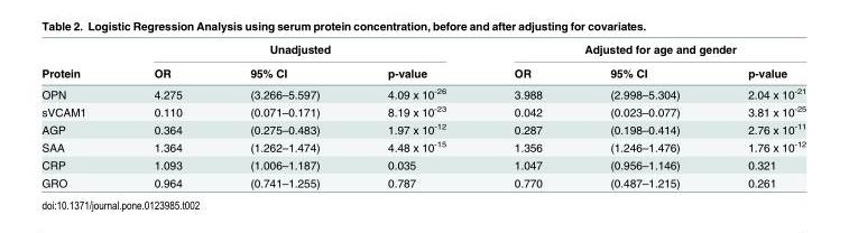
<table><thead><tr><td rowspan="2">Protein</td><td colspan="3">Unadjusted</td><td colspan="3">Adjusted for age and gender</td></tr><tr><td>OR</td><td>95% CI</td><td>p-value</td><td>OR</td><td>95% CI</td><td>p-value</td></tr></thead><tbody><tr><td>OPN</td><td>4.275</td><td>(3.266–5.597)</td><td>4.09 x 10<sup>-26</sup></td><td>3.988</td><td>(2.998–5.304)</td><td>2.04 x 10<sup>-21</sup></td></tr><tr><td>sVCAM1</td><td>0.110</td><td>(0.071–0.171)</td><td>8.19 x 10<sup>-23</sup></td><td>0.042</td><td>(0.023–0.077)</td><td>3.81 x 10<sup>-25</sup></td></tr><tr><td>AGP</td><td>0.364</td><td>(0.275–0.483)</td><td>1.97 x 10<sup>-12</sup></td><td>0.287</td><td>(0.198–0.414)</td><td>2.76 x 10<sup>-11</sup></td></tr><tr><td>SAA</td><td>1.364</td><td>(1.262–1.474)</td><td>4.48 x 10<sup>-15</sup></td><td>1.356</td><td>(1.246–1.476)</td><td>1.76 x 10<sup>-12</sup></td></tr><tr><td>CRP</td><td>1.093</td><td>(1.006–1.187)</td><td>0.035</td><td>1.047</td><td>(0.956–1.146)</td><td>0.321</td></tr><tr><td>GRO</td><td>0.964</td><td>(0.741–1.255)</td><td>0.787</td><td>0.770</td><td>(0.487–1.215)</td><td>0.261</td></tr></tbody></table>